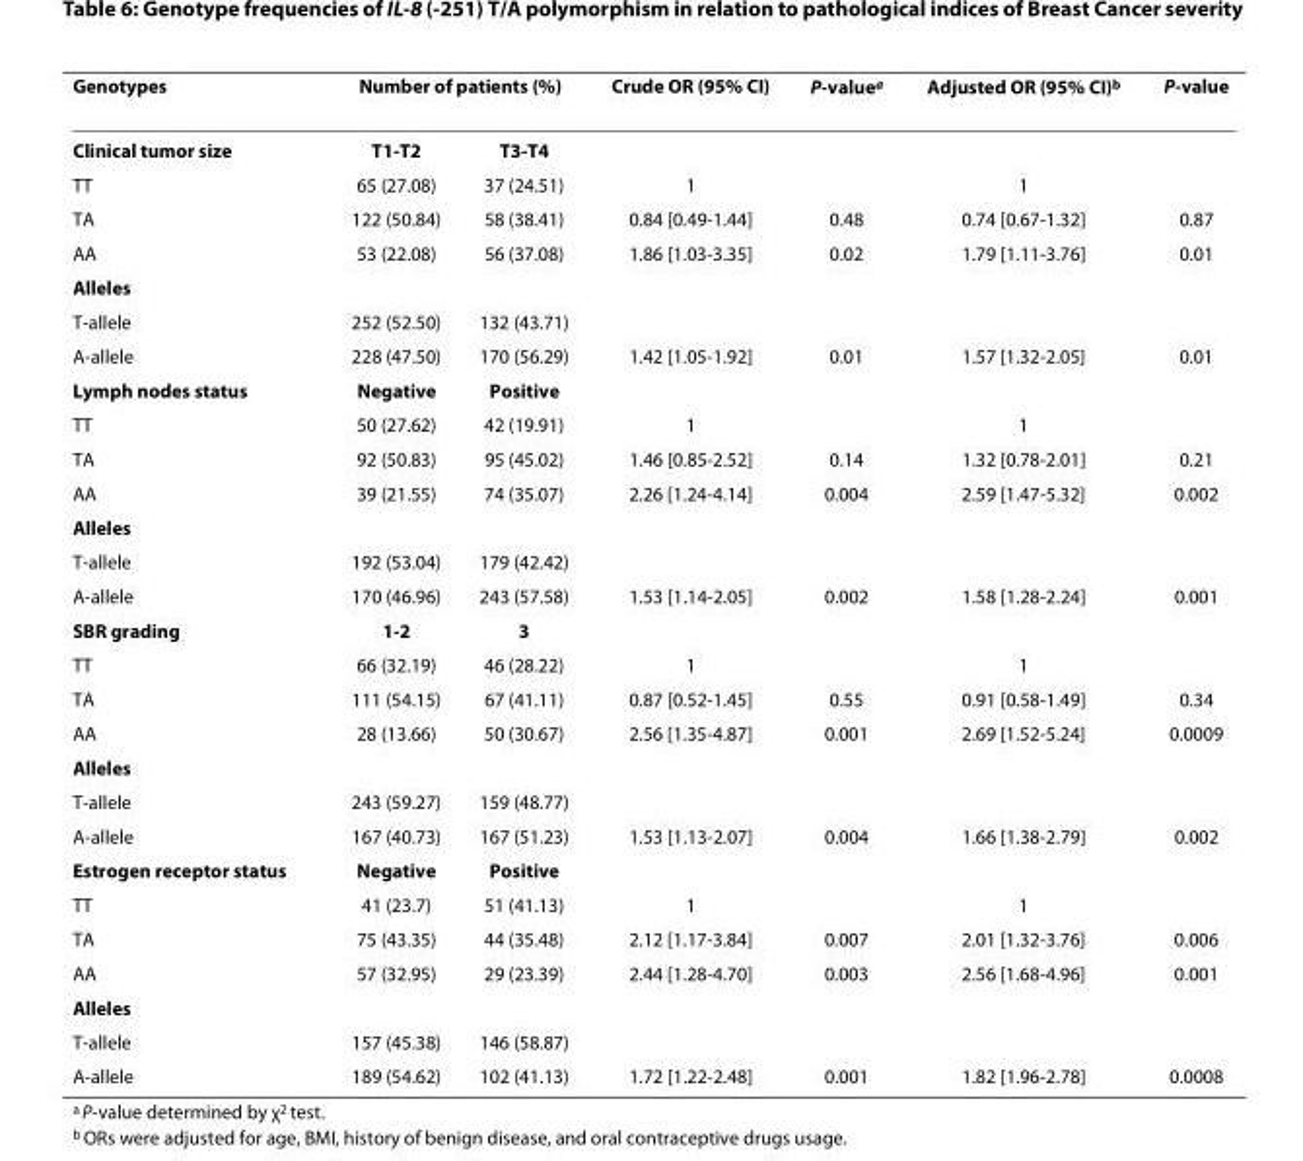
<table><thead><tr><td rowspan="2">Genotypes Clinical tumor size</td><td colspan="2">Number of patients (%)</td><td rowspan="2">Crude OR (95% CI)</td><td rowspan="2">P-value<sup>a</sup></td><td rowspan="2">Adjusted OR (95% CI)<sup>b</sup></td><td rowspan="2">P-value</td></tr><tr><td>T1-T2</td><td>T3-T4</td></tr></thead><tbody><tr><td>TT</td><td>65 (27.08)</td><td>37 (24.51)</td><td>1</td><td></td><td>1</td><td></td></tr><tr><td>TA</td><td>122 (50.84)</td><td>58 (38.41)</td><td>0.84 [0.49-1.44]</td><td>0.48</td><td>0.74 [0.67-1.32]</td><td>0.87</td></tr><tr><td>AA</td><td>53 (22.08)</td><td>56 (37.08)</td><td>1.86 [1.03-3.35]</td><td>0.02</td><td>1.79 [1.11-3.76]</td><td>0.01</td></tr><tr><td colspan="7">Alleles</td></tr><tr><td>T-allele</td><td>252 (52.50)</td><td>132 (43.71)</td><td></td><td></td><td></td><td></td></tr><tr><td>A-allele</td><td>228 (47.50)</td><td>170 (56.29)</td><td>1.42 [1.05-1.92]</td><td>0.01</td><td>1.57 [1.32-2.05]</td><td>0.01</td></tr><tr><td>Lymph nodes status</td><td>Negative</td><td>Positive</td><td></td><td></td><td></td><td></td></tr><tr><td>TT</td><td>50 (27.62)</td><td>42 (19.91)</td><td>1</td><td></td><td>1</td><td></td></tr><tr><td>TA</td><td>92 (50.83)</td><td>95 (45.02)</td><td>1.46 [0.85-2.52]</td><td>0.14</td><td>1.32 [0.78-2.01]</td><td>0.21</td></tr><tr><td>AA</td><td>39 (21.55)</td><td>74 (35.07)</td><td>2.26 [1.24-4.14]</td><td>0.004</td><td>2.59 [1.47-5.32]</td><td>0.002</td></tr><tr><td colspan="7">Alleles</td></tr><tr><td>T-allele</td><td>192 (53.04)</td><td>179 (42.42)</td><td></td><td></td><td></td><td></td></tr><tr><td>A-allele</td><td>170 (46.96)</td><td>243 (57.58)</td><td>1.53 [1.14-2.05]</td><td>0.002</td><td>1.58 [1.28-2.24]</td><td>0.001</td></tr><tr><td>SBR grading</td><td>1-2</td><td>3</td><td></td><td></td><td></td><td></td></tr><tr><td>TT</td><td>66 (32.19)</td><td>46 (28.22)</td><td>1</td><td></td><td>1</td><td></td></tr><tr><td>TA</td><td>111 (54.15)</td><td>67 (41.11)</td><td>0.87 [0.52-1.45]</td><td>0.55</td><td>0.91 [0.58-1.49]</td><td>0.34</td></tr><tr><td>AA</td><td>28 (13.66)</td><td>50 (30.67)</td><td>2.56 [1.35-4.87]</td><td>0.001</td><td>2.69 [1.52-5.24]</td><td>0.0009</td></tr><tr><td colspan="7">Alleles</td></tr><tr><td>T-allele</td><td>243 (59.27)</td><td>159 (48.77)</td><td></td><td></td><td></td><td></td></tr><tr><td>A-allele</td><td>167 (40.73)</td><td>167 (51.23)</td><td>1.53 [1.13-2.07]</td><td>0.004</td><td>1.66 [1.38-2.79]</td><td>0.002</td></tr><tr><td>Estrogen receptor status</td><td>Negative</td><td>Positive</td><td></td><td></td><td></td><td></td></tr><tr><td>TT</td><td>41 (23.7)</td><td>51 (41.13)</td><td>1</td><td></td><td>1</td><td></td></tr><tr><td>TA</td><td>75 (43.35)</td><td>44 (35.48)</td><td>2.12 [1.17-3.84]</td><td>0.007</td><td>2.01 [1.32-3.76]</td><td>0.006</td></tr><tr><td>AA</td><td>57 (32.95)</td><td>29 (23.39)</td><td>2.44 [1.28-4.70]</td><td>0.003</td><td>2.56 [1.68-4.96]</td><td>0.001</td></tr><tr><td colspan="7">Alleles</td></tr><tr><td>T-allele</td><td>157 (45.38)</td><td>146 (58.87)</td><td></td><td></td><td></td><td></td></tr><tr><td>A-allele</td><td>189 (54.62)</td><td>102 (41.13)</td><td>1.72 [1.22-2.48]</td><td>0.001</td><td>1.82 [1.96-2.78]</td><td>0.0008</td></tr></tbody></table>